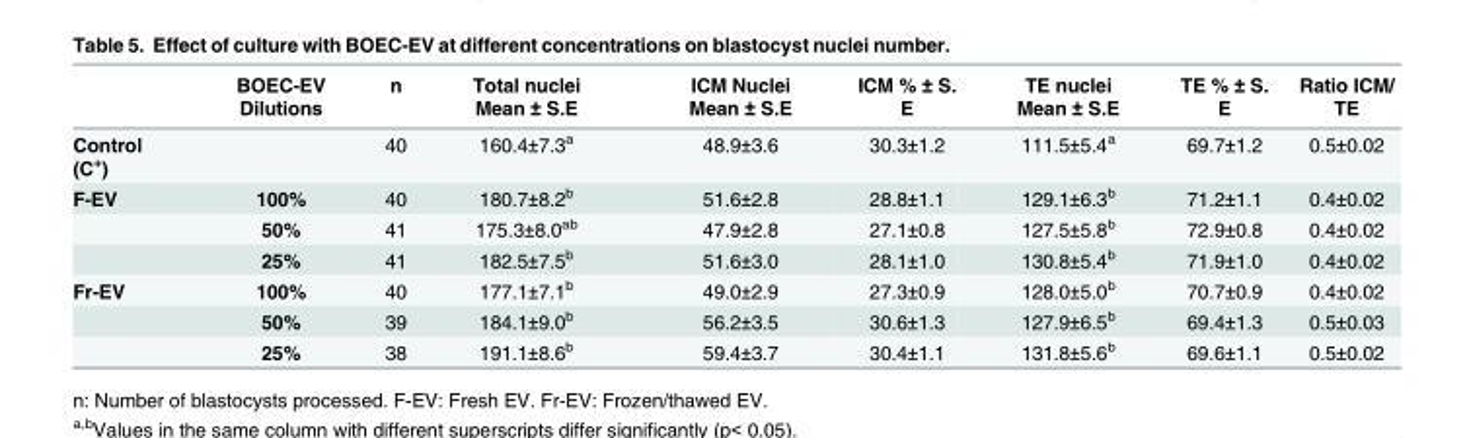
<table><thead><tr><td></td><td>BOEC-EV Dilutions</td><td>n</td><td>Total nuclei Mean ± S.E</td><td>ICM Nuclei Mean ± S.E</td><td>ICM % ± S. E</td><td>TE nuclei Mean ± S.E</td><td>TE % ± S. E</td><td>Ratio ICM/ TE</td></tr></thead><tbody><tr><td>Control (C<sup>+</sup>)</td><td></td><td>40</td><td>160.4±7.3<sup>a</sup></td><td>48.9±3.6</td><td>30.3±1.2</td><td>111.5±5.4<sup>a</sup></td><td>69.7±1.2</td><td>0.5±0.02</td></tr><tr><td rowspan="3">F-EV</td><td>100%</td><td>40</td><td>180.7±8.2<sup>b</sup></td><td>51.6±2.8</td><td>28.8±1.1</td><td>129.1±6.3<sup>b</sup></td><td>71.2±1.1</td><td>0.4±0.02</td></tr><tr><td>50%</td><td>41</td><td>175.3±8.0<sup>ab</sup></td><td>47.9±2.8</td><td>27.1±0.8</td><td>127.5±5.8<sup>b</sup></td><td>72.9±0.8</td><td>0.4±0.02</td></tr><tr><td>25%</td><td>41</td><td>182.5±7.5<sup>b</sup></td><td>51.6±3.0</td><td>28.1±1.0</td><td>130.8±5.4<sup>b</sup></td><td>71.9±1.0</td><td>0.4±0.02</td></tr><tr><td rowspan="3">Fr-EV</td><td>100%</td><td>40</td><td>177.1±7.1<sup>b</sup></td><td>49.0±2.9</td><td>27.3±0.9</td><td>128.0±5.0<sup>b</sup></td><td>70.7±0.9</td><td>0.4±0.02</td></tr><tr><td>50%</td><td>39</td><td>184.1±9.0<sup>b</sup></td><td>56.2±3.5</td><td>30.6±1.3</td><td>127.9±6.5<sup>b</sup></td><td>69.4±1.3</td><td>0.5±0.03</td></tr><tr><td>25%</td><td>38</td><td>191.1±8.6<sup>b</sup></td><td>59.4±3.7</td><td>30.4±1.1</td><td>131.8±5.6<sup>b</sup></td><td>69.6±1.1</td><td>0.5±0.02</td></tr></tbody></table>